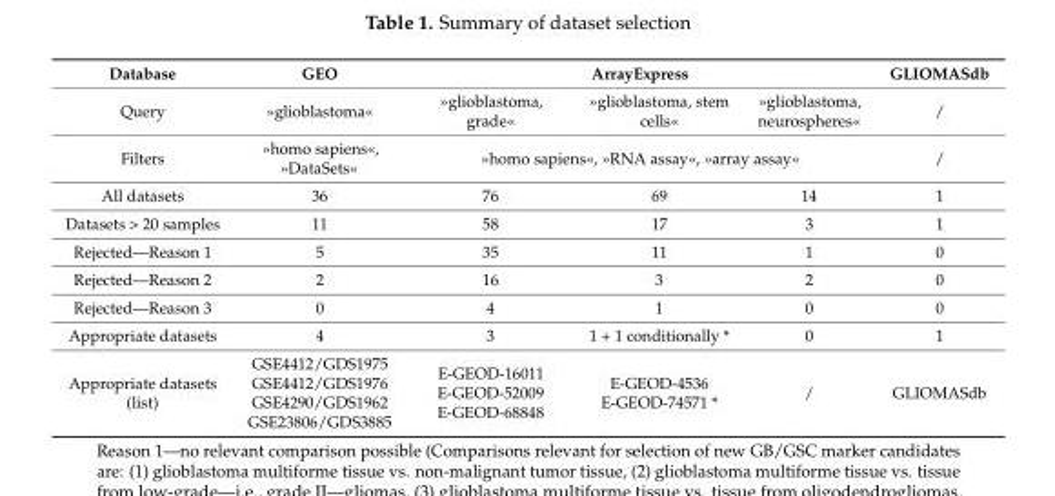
<table><thead><tr><td rowspan="2">Database Query</td><td rowspan="2">GEO »glioblastoma«</td><td colspan="3">ArrayExpress</td><td rowspan="2">GLIOMASdb /</td></tr><tr><td>»glioblastoma, grade«</td><td>»glioblastoma, stem cells«</td><td>»glioblastoma, neurospheres«</td></tr></thead><tbody><tr><td>Filters</td><td>»homo sapiens«, »DataSets«</td><td colspan="3">»homo sapiens«, »RNA assay«, »array assay«</td><td>/</td></tr><tr><td>All datasets</td><td>36</td><td>76</td><td>69</td><td>14</td><td>1</td></tr><tr><td>Datasets &gt; 20 samples</td><td>11</td><td>58</td><td>17</td><td>3</td><td>1</td></tr><tr><td>Rejected—Reason 1</td><td>5</td><td>35</td><td>11</td><td>1</td><td>0</td></tr><tr><td>Rejected—Reason 2</td><td>2</td><td>16</td><td>3</td><td>2</td><td>0</td></tr><tr><td>Rejected—Reason 3</td><td>0</td><td>4</td><td>1</td><td>0</td><td>0</td></tr><tr><td>Appropriate datasets</td><td>4</td><td>3</td><td>1 + 1 conditionally *</td><td>0</td><td>1</td></tr><tr><td>Appropriate datasets (list)</td><td>GSE4412/GDS1975 GSE4412/GDS1976 GSE4290/GDS1962 GSE23806/GDS3885</td><td>E-GEOD-16011 E-GEOD-52009 E-GEOD-68848</td><td>E-GEOD-4536 E-GEOD-74571 *</td><td>/</td><td>GLIOMASdb</td></tr></tbody></table>